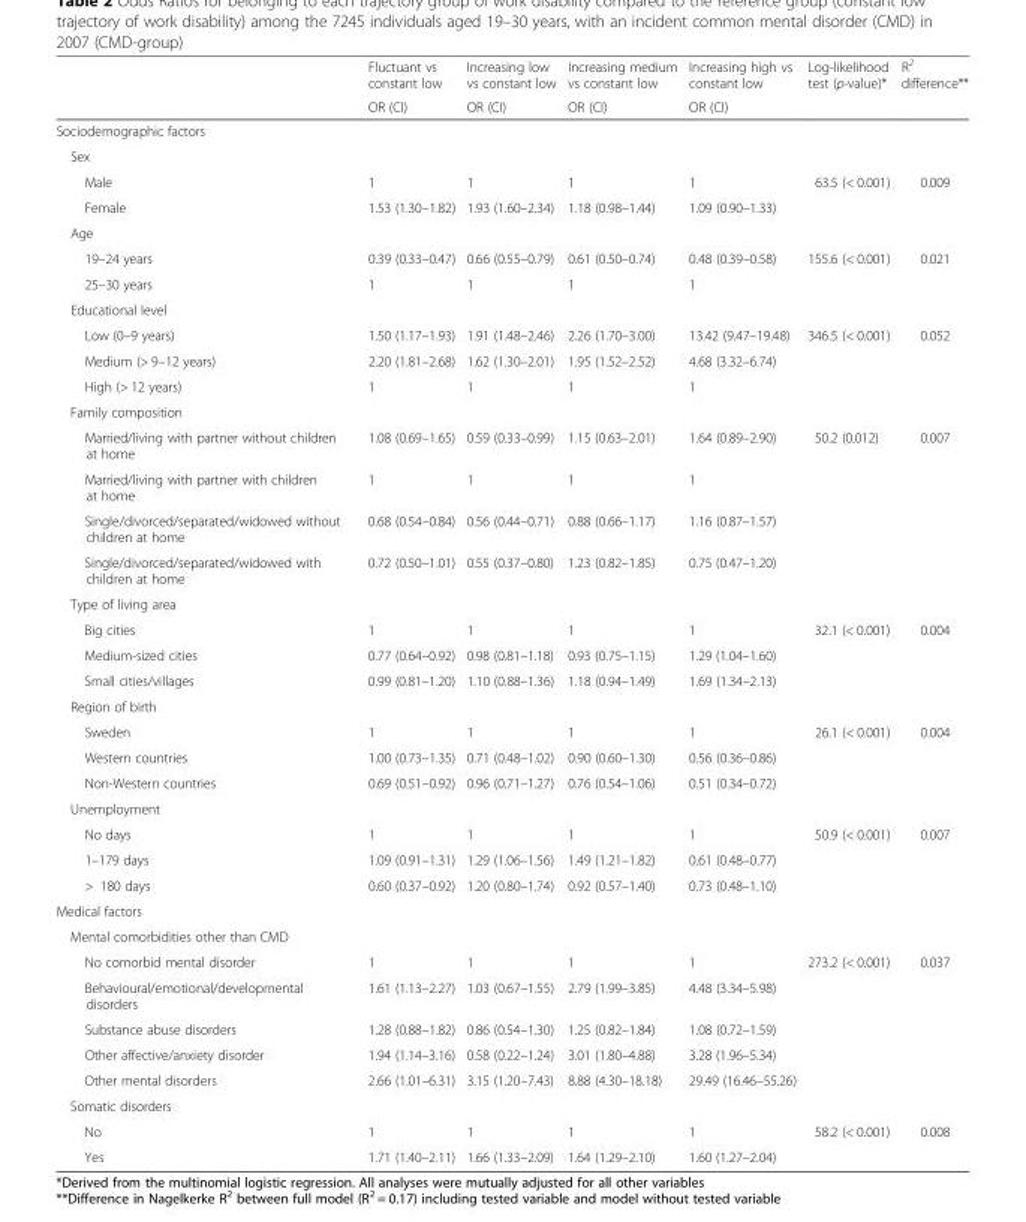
<table><thead><tr><td rowspan="2"></td><td rowspan="2">Fluctuant vs constant low OR (CI)</td><td rowspan="2">Increasing low vs constant low OR (CI)</td><td rowspan="2">Increasing medium vs constant low OR (CI)</td><td rowspan="2">Increasing high vs constant low OR (CI)</td><td rowspan="2">Log-likelihood test (p-value)*</td><td rowspan="2">R<sup>2</sup> difference**</td></tr><tr></tr></thead><tbody><tr><td colspan="7">Sociodemographic factors</td></tr><tr><td colspan="7">Sex</td></tr><tr><td>Male</td><td>1</td><td>1</td><td>1</td><td>1</td><td>63.5 (&lt; 0.001)</td><td>0.009</td></tr><tr><td>Female</td><td>1.53 (1.30–1.82)</td><td>1.93 (1.60–2.34)</td><td>1.18 (0.98–1.44)</td><td>1.09 (0.90–1.33)</td><td></td><td></td></tr><tr><td colspan="7">Age</td></tr><tr><td>19–24 years</td><td>0.39 (0.33–0.47)</td><td>0.66 (0.55–0.79)</td><td>0.61 (0.50–0.74)</td><td>0.48 (0.39–0.58)</td><td>155.6 (&lt; 0.001)</td><td>0.021</td></tr><tr><td>25–30 years</td><td>1</td><td>1</td><td>1</td><td>1</td><td></td><td></td></tr><tr><td colspan="7">Educational level</td></tr><tr><td>Low (0–9 years)</td><td>1.50 (1.17–1.93)</td><td>1.91 (1.48–2.46)</td><td>2.26 (1.70–3.00)</td><td>13.42 (9.47–19.48)</td><td>346.5 (&lt; 0.001)</td><td>0.052</td></tr><tr><td>Medium (&gt; 9–12 years)</td><td>2.20 (1.81–2.68)</td><td>1.62 (1.30–2.01)</td><td>1.95 (1.52–2.52)</td><td>4.68 (3.32–6.74)</td><td></td><td></td></tr><tr><td>High (&gt; 12 years)</td><td>1</td><td>1</td><td>1</td><td>1</td><td></td><td></td></tr><tr><td colspan="7">Family composition</td></tr><tr><td>Married/living with partner without children at home</td><td>1.08 (0.69–1.65)</td><td>0.59 (0.33–0.99)</td><td>1.15 (0.63–2.01)</td><td>1.64 (0.89–2.90)</td><td>50.2 (0.012)</td><td>0.007</td></tr><tr><td>Married/living with partner with children at home</td><td>1</td><td>1</td><td>1</td><td>1</td><td></td><td></td></tr><tr><td>Single/divorced/separated/widowed without children at home</td><td>0.68 (0.54–0.84)</td><td>0.56 (0.44–0.71)</td><td>0.88 (0.66–1.17)</td><td>1.16 (0.87–1.57)</td><td></td><td></td></tr><tr><td>Single/divorced/separated/widowed with children at home</td><td>0.72 (0.50–1.01)</td><td>0.55 (0.37–0.80)</td><td>1.23 (0.82–1.85)</td><td>0.75 (0.47–1.20)</td><td></td><td></td></tr><tr><td colspan="7">Type of living area</td></tr><tr><td>Big cities</td><td>1</td><td>1</td><td>1</td><td>1</td><td>32.1 (&lt; 0.001)</td><td>0.004</td></tr><tr><td>Medium-sized cities</td><td>0.77 (0.64–0.92)</td><td>0.98 (0.81–1.18)</td><td>0.93 (0.75–1.15)</td><td>1.29 (1.04–1.60)</td><td></td><td></td></tr><tr><td>Small cities/villages</td><td>0.99 (0.81–1.20)</td><td>1.10 (0.88–1.36)</td><td>1.18 (0.94–1.49)</td><td>1.69 (1.34–2.13)</td><td></td><td></td></tr><tr><td colspan="7">Region of birth</td></tr><tr><td>Sweden</td><td>1</td><td>1</td><td>1</td><td>1</td><td>26.1 (&lt; 0.001)</td><td>0.004</td></tr><tr><td>Western countries</td><td>1.00 (0.73–1.35)</td><td>0.71 (0.48–1.02)</td><td>0.90 (0.60–1.30)</td><td>0.56 (0.36–0.86)</td><td></td><td></td></tr><tr><td>Non-Western countries</td><td>0.69 (0.51–0.92)</td><td>0.96 (0.71–1.27)</td><td>0.76 (0.54–1.06)</td><td>0.51 (0.34–0.72)</td><td></td><td></td></tr><tr><td colspan="7">Unemployment</td></tr><tr><td>No days</td><td>1</td><td>1</td><td>1</td><td>1</td><td>50.9 (&lt; 0.001)</td><td>0.007</td></tr><tr><td>1–179 days</td><td>1.09 (0.91–1.31)</td><td>1.29 (1.06–1.56)</td><td>1.49 (1.21–1.82)</td><td>0.61 (0.48–0.77)</td><td></td><td></td></tr><tr><td>&gt; 180 days</td><td>0.60 (0.37–0.92)</td><td>1.20 (0.80–1.74)</td><td>0.92 (0.57–1.40)</td><td>0.73 (0.48–1.10)</td><td></td><td></td></tr><tr><td colspan="7">Medical factors</td></tr><tr><td colspan="7">Mental comorbidities other than CMD</td></tr><tr><td>No comorbid mental disorder</td><td>1</td><td>1</td><td>1</td><td>1</td><td>273.2 (&lt; 0.001)</td><td>0.037</td></tr><tr><td>Behavioural/emotional/developmental disorders</td><td>1.61 (1.13–2.27)</td><td>1.03 (0.67–1.55)</td><td>2.79 (1.99–3.85)</td><td>4.48 (3.34–5.98)</td><td></td><td></td></tr><tr><td>Substance abuse disorders</td><td>1.28 (0.88–1.82)</td><td>0.86 (0.54–1.30)</td><td>1.25 (0.82–1.84)</td><td>1.08 (0.72–1.59)</td><td></td><td></td></tr><tr><td>Other affective/anxiety disorder</td><td>1.94 (1.14–3.16)</td><td>0.58 (0.22–1.24)</td><td>3.01 (1.80–4.88)</td><td>3.28 (1.96–5.34)</td><td></td><td></td></tr><tr><td>Other mental disorders</td><td>2.66 (1.01–6.31)</td><td>3.15 (1.20–7.43)</td><td>8.88 (4.30–18.18)</td><td>29.49 (16.46–55.26)</td><td></td><td></td></tr><tr><td colspan="7">Somatic disorders</td></tr><tr><td>No</td><td>1</td><td>1</td><td>1</td><td>1</td><td>58.2 (&lt; 0.001)</td><td>0.008</td></tr><tr><td>Yes</td><td>1.71 (1.40–2.11)</td><td>1.66 (1.33–2.09)</td><td>1.64 (1.29–2.10)</td><td>1.60 (1.27–2.04)</td><td></td><td></td></tr></tbody></table>